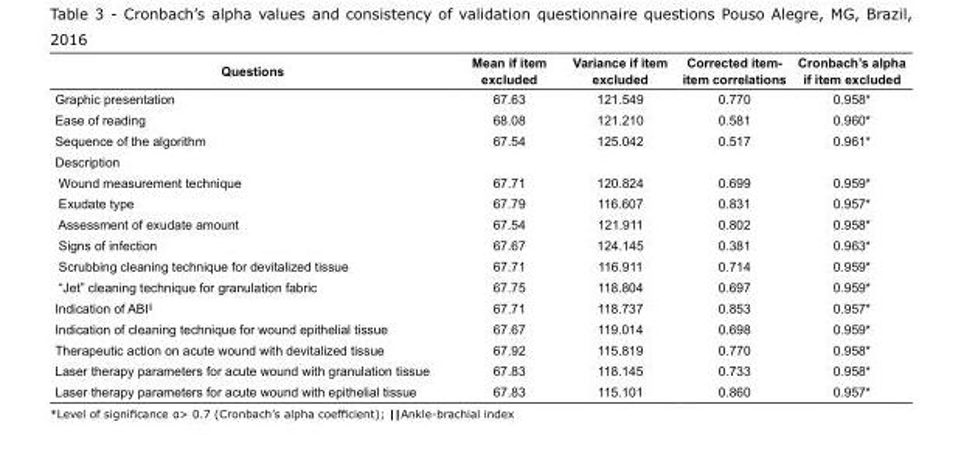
<table><tbody><tr><td>Questions</td><td>Mean if item excluded</td><td>Variance if item excluded</td><td>Corrected item- item correlations</td><td>Cronbach’s alpha if item excluded</td></tr><tr><td>Graphic presentation</td><td>67.63</td><td>121.549</td><td>0.770</td><td>0.958*</td></tr><tr><td>Ease of reading</td><td>68.08</td><td>121.210</td><td>0.581</td><td>0.960*</td></tr><tr><td>Sequence of the algorithm</td><td>67.54</td><td>125.042</td><td>0.517</td><td>0.961*</td></tr><tr><td colspan="5">Description</td></tr><tr><td>Wound measurement technique</td><td>67.71</td><td>120.824</td><td>0.699</td><td>0.959*</td></tr><tr><td>Exudate type</td><td>67.79</td><td>116.607</td><td>0.831</td><td>0.957*</td></tr><tr><td>Assessment of exudate amount</td><td>67.54</td><td>121.911</td><td>0.802</td><td>0.958*</td></tr><tr><td>Signs of infection</td><td>67.67</td><td>124.145</td><td>0.381</td><td>0.963*</td></tr><tr><td>Scrubbing cleaning technique for devitalized tissue</td><td>67.71</td><td>116.911</td><td>0.714</td><td>0.959*</td></tr><tr><td>“Jet” cleaning technique for granulation fabric</td><td>67.75</td><td>118.804</td><td>0.697</td><td>0.959*</td></tr><tr><td>Indication of ABI<sup>||</sup></td><td>67.71</td><td>118.737</td><td>0.853</td><td>0.957*</td></tr><tr><td>Indication of cleaning technique for wound epithelial tissue</td><td>67.67</td><td>119.014</td><td>0.698</td><td>0.959*</td></tr><tr><td>Therapeutic action on acute wound with devitalized tissue</td><td>67.92</td><td>115.819</td><td>0.770</td><td>0.958*</td></tr><tr><td>Laser therapy parameters for acute wound with granulation tissue</td><td>67.83</td><td>118.145</td><td>0.733</td><td>0.958*</td></tr><tr><td>Laser therapy parameters for acute wound with epithelial tissue</td><td>67.83</td><td>115.101</td><td>0.860</td><td>0.957*</td></tr></tbody></table>